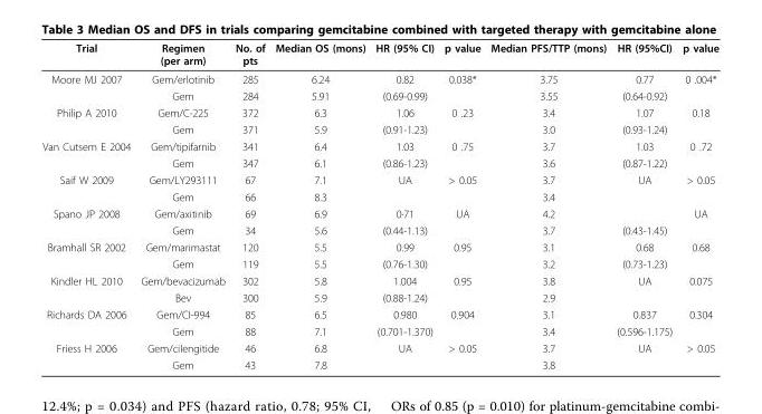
<table><thead><tr><td>Trial</td><td>Regimen (per arm)</td><td>No. of pts</td><td>Median OS (mons)</td><td>HR (95% CI)</td><td>p value</td><td>Median PFS/TTP (mons)</td><td>HR (95%CI)</td><td>p value</td></tr></thead><tbody><tr><td rowspan="2">Moore MJ 2007</td><td>Gem/erlotinib</td><td>285</td><td>6.24</td><td>0.82</td><td>0.038*</td><td>3.75</td><td>0.77</td><td>0 .004*</td></tr><tr><td>Gem</td><td>284</td><td>5.91</td><td>(0.69-0.99)</td><td></td><td>3.55</td><td>(0.64-0.92)</td><td></td></tr><tr><td rowspan="2">Philip A 2010</td><td>Gem/C-225</td><td>372</td><td>6.3</td><td>1.06</td><td>0 .23</td><td>3.4</td><td>1.07</td><td>0.18</td></tr><tr><td>Gem</td><td>371</td><td>5.9</td><td>(0.91-1.23)</td><td></td><td>3.0</td><td>(0.93-1.24)</td><td></td></tr><tr><td rowspan="2">Van Cutsem E 2004</td><td>Gem/tipifarnib</td><td>341</td><td>6.4</td><td>1.03</td><td>0 .75</td><td>3.7</td><td>1.03</td><td>0 .72</td></tr><tr><td>Gem</td><td>347</td><td>6.1</td><td>(0.86-1.23)</td><td></td><td>3.6</td><td>(0.87-1.22)</td><td></td></tr><tr><td rowspan="2">Saif W 2009</td><td>Gem/LY293111</td><td>67</td><td>7.1</td><td>UA</td><td>&gt; 0.05</td><td>3.7</td><td>UA</td><td>&gt; 0.05</td></tr><tr><td>Gem</td><td>66</td><td>8.3</td><td></td><td></td><td>3.4</td><td></td><td></td></tr><tr><td rowspan="2">Spano JP 2008</td><td>Gem/axitinib</td><td>69</td><td>6.9</td><td>0·71</td><td>UA</td><td>4.2</td><td></td><td>UA</td></tr><tr><td>Gem</td><td>34</td><td>5.6</td><td>(0.44-1.13)</td><td></td><td>3.7</td><td>(0.43-1.45)</td><td></td></tr><tr><td rowspan="2">Bramhall SR 2002</td><td>Gem/marimastat</td><td>120</td><td>5.5</td><td>0.99</td><td>0.95</td><td>3.1</td><td>0.68</td><td>0.68</td></tr><tr><td>Gem</td><td>119</td><td>5.5</td><td>(0.76-1.30)</td><td></td><td>3.2</td><td>(0.73-1.23)</td><td></td></tr><tr><td rowspan="2">Kindler HL 2010</td><td>Gem/bevacizumab</td><td>302</td><td>5.8</td><td>1.004</td><td>0.95</td><td>3.8</td><td>UA</td><td>0.075</td></tr><tr><td>Bev</td><td>300</td><td>5.9</td><td>(0.88-1.24)</td><td></td><td>2.9</td><td></td><td></td></tr><tr><td rowspan="2">Richards DA 2006</td><td>Gem/CI-994</td><td>85</td><td>6.5</td><td>0.980</td><td>0.904</td><td>3.1</td><td>0.837</td><td>0.304</td></tr><tr><td>Gem</td><td>88</td><td>7.1</td><td>(0.701-1.370)</td><td></td><td>3.4</td><td>(0.596-1.175)</td><td></td></tr><tr><td rowspan="2">Friess H 2006</td><td>Gem/cilengitide</td><td>46</td><td>6.8</td><td>UA</td><td>&gt; 0.05</td><td>3.7</td><td>UA</td><td>&gt; 0.05</td></tr><tr><td>Gem</td><td>43</td><td>7.8</td><td></td><td></td><td>3.8</td><td></td><td></td></tr></tbody></table>